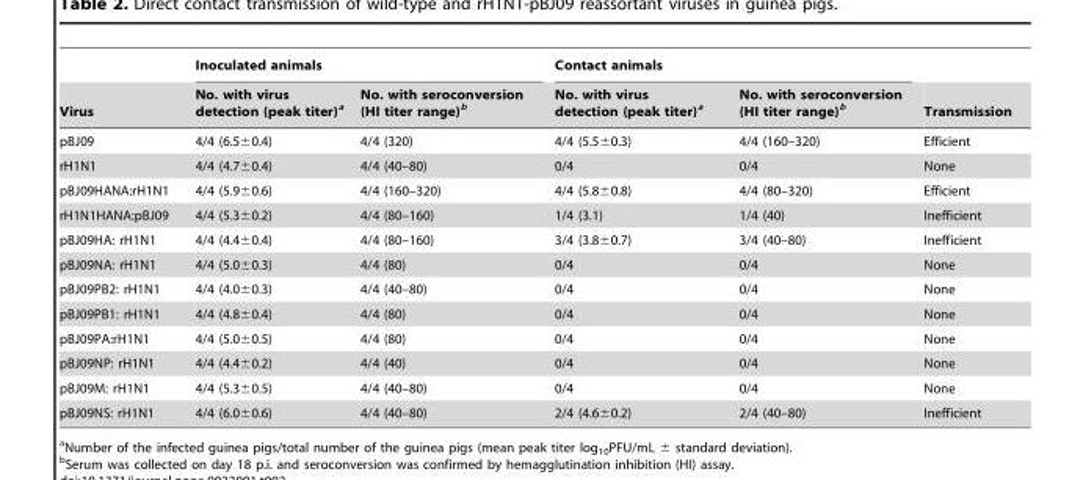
<table><thead><tr><td rowspan="2">Virus</td><td colspan="2">Inoculated animals</td><td colspan="2">Contact animals</td><td rowspan="2">Transmission</td></tr><tr><td>No. with virus detection (peak titer)<sup>a</sup></td><td>No. with seroconversion (HI titer range)<sup>b</sup></td><td>No. with virus detection (peak titer)<sup>a</sup></td><td>No. with seroconversion (HI titer range)<sup>b</sup></td></tr></thead><tbody><tr><td>pBJ09</td><td>4/4 (6.5±0.4)</td><td>4/4 (320)</td><td>4/4 (5.5±0.3)</td><td>4/4 (160–320)</td><td>Efficient</td></tr><tr><td>rH1N1</td><td>4/4 (4.7±0.4)</td><td>4/4 (40–80)</td><td>0/4</td><td>0/4</td><td>None</td></tr><tr><td>pBJ09HANA:rH1N1</td><td>4/4 (5.9±0.6)</td><td>4/4 (160–320)</td><td>4/4 (5.8±0.8)</td><td>4/4 (80–320)</td><td>Efficient</td></tr><tr><td>rH1N1HANA:pBJ09</td><td>4/4 (5.3±0.2)</td><td>4/4 (80–160)</td><td>1/4 (3.1)</td><td>1/4 (40)</td><td>Inefficient</td></tr><tr><td>pBJ09HA: rH1N1</td><td>4/4 (4.4±0.4)</td><td>4/4 (80–160)</td><td>3/4 (3.8±0.7)</td><td>3/4 (40–80)</td><td>Inefficient</td></tr><tr><td>pBJ09NA: rH1N1</td><td>4/4 (5.0±0.3)</td><td>4/4 (80)</td><td>0/4</td><td>0/4</td><td>None</td></tr><tr><td>pBJ09PB2: rH1N1</td><td>4/4 (4.0±0.3)</td><td>4/4 (40–80)</td><td>0/4</td><td>0/4</td><td>None</td></tr><tr><td>pBJ09PB1: rH1N1</td><td>4/4 (4.8±0.4)</td><td>4/4 (80)</td><td>0/4</td><td>0/4</td><td>None</td></tr><tr><td>pBJ09PA:rH1N1</td><td>4/4 (5.0±0.5)</td><td>4/4 (80)</td><td>0/4</td><td>0/4</td><td>None</td></tr><tr><td>pBJ09NP: rH1N1</td><td>4/4 (4.4±0.2)</td><td>4/4 (40)</td><td>0/4</td><td>0/4</td><td>None</td></tr><tr><td>pBJ09M: rH1N1</td><td>4/4 (5.3±0.5)</td><td>4/4 (40–80)</td><td>0/4</td><td>0/4</td><td>None</td></tr><tr><td>pBJ09NS: rH1N1</td><td>4/4 (6.0±0.6)</td><td>4/4 (40–80)</td><td>2/4 (4.6±0.2)</td><td>2/4 (40–80)</td><td>Inefficient</td></tr></tbody></table>